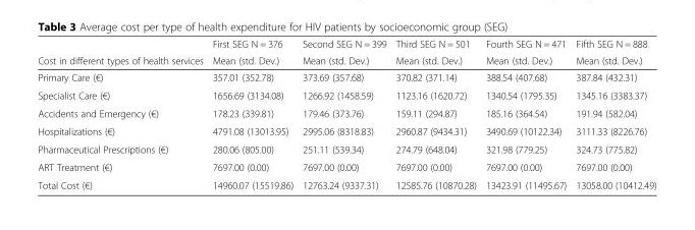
<table><thead><tr><td rowspan="2">Cost in different types of health services</td><td rowspan="2">First SEG N = 376 Mean (std. Dev.)</td><td rowspan="2">Second SEG N = 399 Mean (std. Dev.)</td><td rowspan="2">Third SEG N = 501 Mean (std. Dev.)</td><td rowspan="2">Fourth SEG N = 471 Mean (std. Dev.)</td><td rowspan="2">Fifth SEG N = 888 Mean (std. Dev.)</td></tr><tr></tr></thead><tbody><tr><td>Primary Care (€)</td><td>357.01 (352.78)</td><td>373.69 (357.68)</td><td>370.82 (371.14)</td><td>388.54 (407.68)</td><td>387.84 (432.31)</td></tr><tr><td>Specialist Care (€)</td><td>1656.69 (3134.08)</td><td>1266.92 (1458.59)</td><td>1123.16 (1620.72)</td><td>1340.54 (1795.35)</td><td>1345.16 (3383.37)</td></tr><tr><td>Accidents and Emergency (€)</td><td>178.23 (339.81)</td><td>179.46 (373.76)</td><td>159.11 (294.87)</td><td>185.16 (364.54)</td><td>191.94 (582.04)</td></tr><tr><td>Hospitalizations (€)</td><td>4791.08 (13013.95)</td><td>2995.06 (8318.83)</td><td>2960.87 (9434.31)</td><td>3490.69 (10122.34)</td><td>3111.33 (8226.76)</td></tr><tr><td>Pharmaceutical Prescriptions (€)</td><td>280.06 (805.00)</td><td>251.11 (539.34)</td><td>274.79 (648.04)</td><td>321.98 (779.25)</td><td>324.73 (775.82)</td></tr><tr><td>ART Treatment (€)</td><td>7697.00 (0.00)</td><td>7697.00 (0.00)</td><td>7697.00 (0.00)</td><td>7697.00 (0.00)</td><td>7697.00 (0.00)</td></tr><tr><td>Total Cost (€)</td><td>14960.07 (15519.86)</td><td>12763.24 (9337.31)</td><td>12585.76 (10870.28)</td><td>13423.91 (11495.67)</td><td>13058.00 (10412.49)</td></tr></tbody></table>